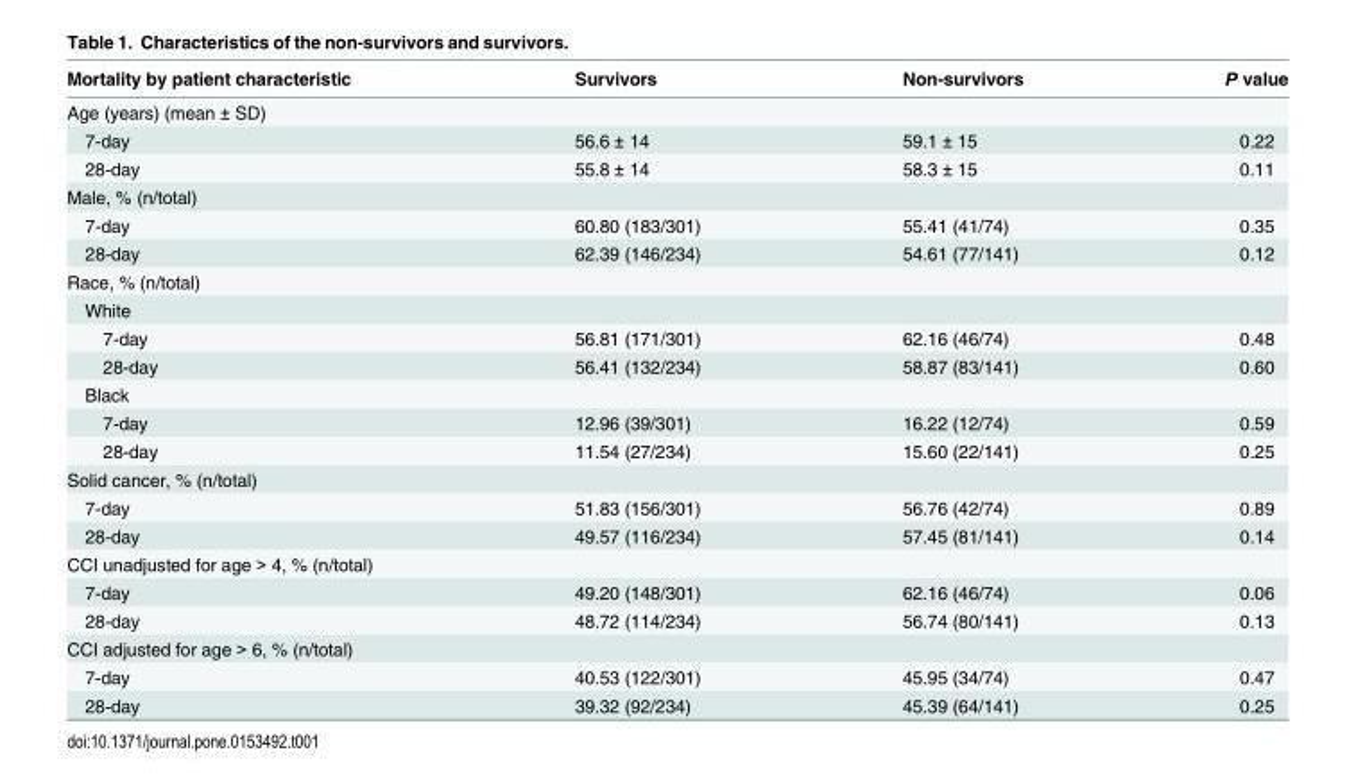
<table><thead><tr><td>Mortality by patient characteristic</td><td>Survivors</td><td>Non-survivors</td><td>P value</td></tr></thead><tbody><tr><td colspan="4">Age (years) (mean ± SD)</td></tr><tr><td>7-day</td><td>56.6 ± 14</td><td>59.1 ± 15</td><td>0.22</td></tr><tr><td>28-day</td><td>55.8 ± 14</td><td>58.3 ± 15</td><td>0.11</td></tr><tr><td colspan="4">Male, % (n/total)</td></tr><tr><td>7-day</td><td>60.80 (183/301)</td><td>55.41 (41/74)</td><td>0.35</td></tr><tr><td>28-day</td><td>62.39 (146/234)</td><td>54.61 (77/141)</td><td>0.12</td></tr><tr><td colspan="4">Race, % (n/total)</td></tr><tr><td colspan="4">White</td></tr><tr><td>7-day</td><td>56.81 (171/301)</td><td>62.16 (46/74)</td><td>0.48</td></tr><tr><td>28-day</td><td>56.41 (132/234)</td><td>58.87 (83/141)</td><td>0.60</td></tr><tr><td colspan="4">Black</td></tr><tr><td>7-day</td><td>12.96 (39/301)</td><td>16.22 (12/74)</td><td>0.59</td></tr><tr><td>28-day</td><td>11.54 (27/234)</td><td>15.60 (22/141)</td><td>0.25</td></tr><tr><td colspan="4">Solid cancer, % (n/total)</td></tr><tr><td>7-day</td><td>51.83 (156/301)</td><td>56.76 (42/74)</td><td>0.89</td></tr><tr><td>28-day</td><td>49.57 (116/234)</td><td>57.45 (81/141)</td><td>0.14</td></tr><tr><td colspan="4">CCI unadjusted for age &gt; 4, % (n/total)</td></tr><tr><td>7-day</td><td>49.20 (148/301)</td><td>62.16 (46/74)</td><td>0.06</td></tr><tr><td>28-day</td><td>48.72 (114/234)</td><td>56.74 (80/141)</td><td>0.13</td></tr><tr><td colspan="4">CCI adjusted for age &gt; 6, % (n/total)</td></tr><tr><td>7-day</td><td>40.53 (122/301)</td><td>45.95 (34/74)</td><td>0.47</td></tr><tr><td>28-day</td><td>39.32 (92/234)</td><td>45.39 (64/141)</td><td>0.25</td></tr></tbody></table>